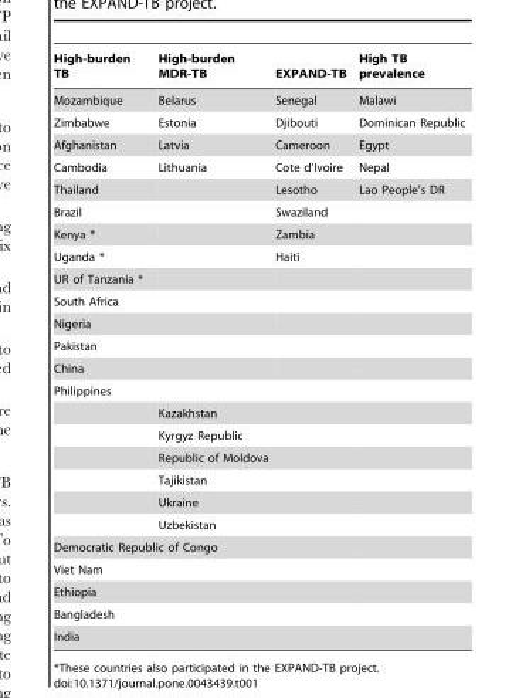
<table><thead><tr><td>High-burden TB</td><td>High-burden MDR-TB</td><td>EXPAND-TB</td><td>High TB prevalence</td></tr></thead><tbody><tr><td>Mozambique</td><td>Belarus</td><td>Senegal</td><td>Malawi</td></tr><tr><td>Zimbabwe</td><td>Estonia</td><td>Djibouti</td><td>Dominican Republic</td></tr><tr><td>Afghanistan</td><td>Latvia</td><td>Cameroon</td><td>Egypt</td></tr><tr><td>Cambodia</td><td>Lithuania</td><td>Cote d’Ivoire</td><td>Nepal</td></tr><tr><td>Thailand</td><td></td><td>Lesotho</td><td>Lao People’s DR</td></tr><tr><td>Brazil</td><td></td><td>Swaziland</td><td></td></tr><tr><td>Kenya *</td><td></td><td>Zambia</td><td></td></tr><tr><td>Uganda *</td><td></td><td>Haiti</td><td></td></tr><tr><td colspan="4">UR of Tanzania *</td></tr><tr><td colspan="4">South Africa</td></tr><tr><td colspan="4">Nigeria</td></tr><tr><td colspan="4">Pakistan</td></tr><tr><td colspan="4">China</td></tr><tr><td colspan="4">Philippines</td></tr><tr><td></td><td colspan="2">Kazakhstan</td><td></td></tr><tr><td></td><td colspan="2">Kyrgyz Republic</td><td></td></tr><tr><td></td><td colspan="2">Republic of Moldova</td><td></td></tr><tr><td></td><td colspan="2">Tajikistan</td><td></td></tr><tr><td></td><td colspan="2">Ukraine</td><td></td></tr><tr><td></td><td colspan="2">Uzbekistan</td><td></td></tr><tr><td colspan="4">Democratic Republic of Congo</td></tr><tr><td colspan="4">Viet Nam</td></tr><tr><td colspan="4">Ethiopia</td></tr><tr><td colspan="4">Bangladesh</td></tr><tr><td colspan="3">India</td><td></td></tr></tbody></table>